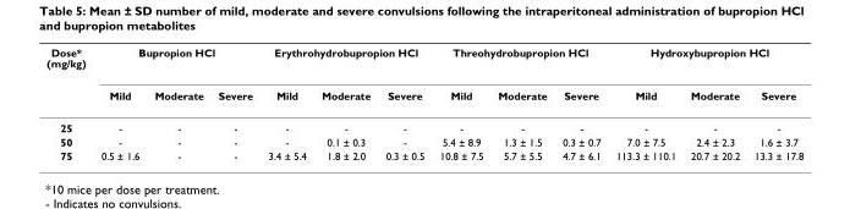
<table><thead><tr><td rowspan="2">Dose* (mg/kg)</td><td colspan="3">Bupropion HCl</td><td colspan="3">Erythrohydrobupropion HCl</td><td colspan="3">Threohydrobupropion HCl</td><td colspan="3">Hydroxybupropion HCl</td></tr><tr><td>Mild</td><td>Moderate</td><td>Severe</td><td>Mild</td><td>Moderate</td><td>Severe</td><td>Mild</td><td>Moderate</td><td>Severe</td><td>Mild</td><td>Moderate</td><td>Severe</td></tr></thead><tbody><tr><td>25</td><td>-</td><td>-</td><td>-</td><td>-</td><td>-</td><td>-</td><td>-</td><td>-</td><td>-</td><td>-</td><td>-</td><td>-</td></tr><tr><td>50</td><td>-</td><td>-</td><td>-</td><td>-</td><td>0.1 ± 0.3</td><td>-</td><td>5.4 ± 8.9</td><td>1.3 ± 1.5</td><td>0.3 ± 0.7</td><td>7.0 ± 7.5</td><td>2.4 ± 2.3</td><td>1.6 ± 3.7</td></tr><tr><td>75</td><td>0.5 ± 1.6</td><td>-</td><td>-</td><td>3.4 ± 5.4</td><td>1.8 ± 2.0</td><td>0.3 ± 0.5</td><td>10.8 ± 7.5</td><td>5.7 ± 5.5</td><td>4.7 ± 6.1</td><td>113.3 ± 110.1</td><td>20.7 ± 20.2</td><td>13.3 ± 17.8</td></tr></tbody></table>